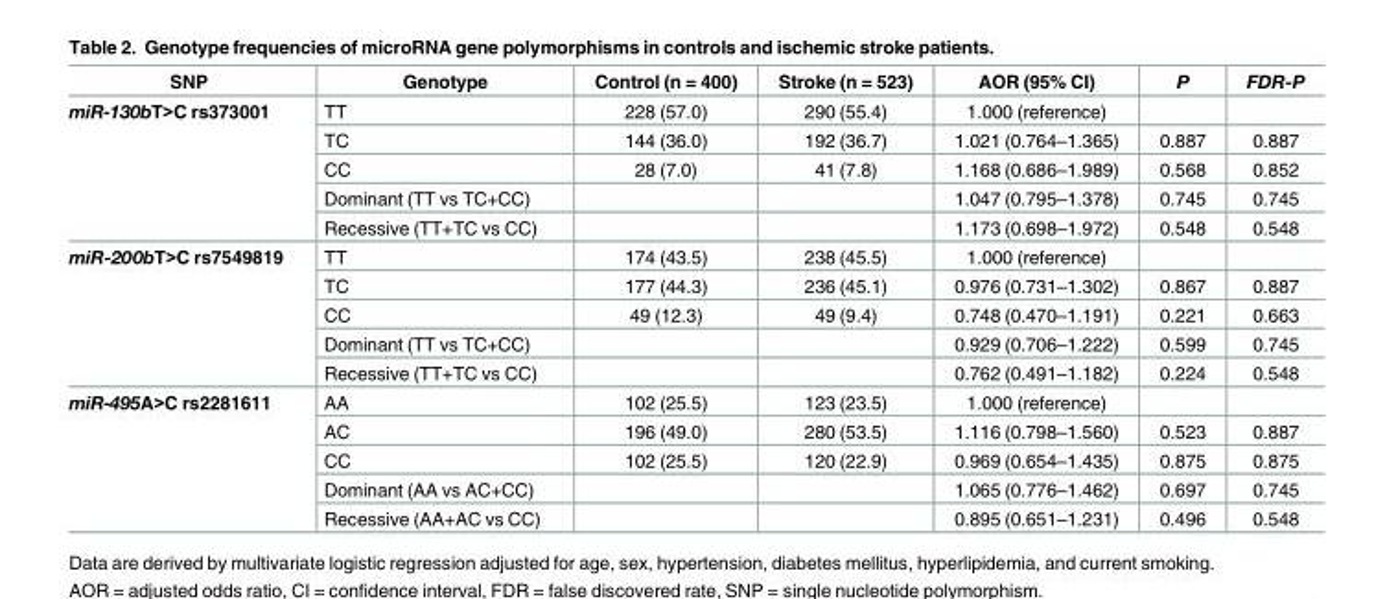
<table><thead><tr><td>SNP</td><td>Genotype</td><td>Control (n = 400)</td><td>Stroke (n = 523)</td><td>AOR (95% CI)</td><td>P</td><td>FDR-P</td></tr></thead><tbody><tr><td rowspan="5">miR-130bT&gt;C rs373001</td><td>TT</td><td>228 (57.0)</td><td>290 (55.4)</td><td>1.000 (reference)</td><td></td><td></td></tr><tr><td>TC</td><td>144 (36.0)</td><td>192 (36.7)</td><td>1.021 (0.764–1.365)</td><td>0.887</td><td>0.887</td></tr><tr><td>CC</td><td>28 (7.0)</td><td>41 (7.8)</td><td>1.168 (0.686–1.989)</td><td>0.568</td><td>0.852</td></tr><tr><td>Dominant (TT vs TC+CC)</td><td></td><td></td><td>1.047 (0.795–1.378)</td><td>0.745</td><td>0.745</td></tr><tr><td>Recessive (TT+TC vs CC)</td><td></td><td></td><td>1.173 (0.698–1.972)</td><td>0.548</td><td>0.548</td></tr><tr><td rowspan="5">miR-200bT&gt;C rs7549819</td><td>TT</td><td>174 (43.5)</td><td>238 (45.5)</td><td>1.000 (reference)</td><td></td><td></td></tr><tr><td>TC</td><td>177 (44.3)</td><td>236 (45.1)</td><td>0.976 (0.731–1.302)</td><td>0.867</td><td>0.887</td></tr><tr><td>CC</td><td>49 (12.3)</td><td>49 (9.4)</td><td>0.748 (0.470–1.191)</td><td>0.221</td><td>0.663</td></tr><tr><td>Dominant (TT vs TC+CC)</td><td></td><td></td><td>0.929 (0.706–1.222)</td><td>0.599</td><td>0.745</td></tr><tr><td>Recessive (TT+TC vs CC)</td><td></td><td></td><td>0.762 (0.491–1.182)</td><td>0.224</td><td>0.548</td></tr><tr><td rowspan="5">miR-495A&gt;C rs2281611</td><td>AA</td><td>102 (25.5)</td><td>123 (23.5)</td><td>1.000 (reference)</td><td></td><td></td></tr><tr><td>AC</td><td>196 (49.0)</td><td>280 (53.5)</td><td>1.116 (0.798–1.560)</td><td>0.523</td><td>0.887</td></tr><tr><td>CC</td><td>102 (25.5)</td><td>120 (22.9)</td><td>0.969 (0.654–1.435)</td><td>0.875</td><td>0.875</td></tr><tr><td>Dominant (AA vs AC+CC)</td><td></td><td></td><td>1.065 (0.776–1.462)</td><td>0.697</td><td>0.745</td></tr><tr><td>Recessive (AA+AC vs CC)</td><td></td><td></td><td>0.895 (0.651–1.231)</td><td>0.496</td><td>0.548</td></tr></tbody></table>